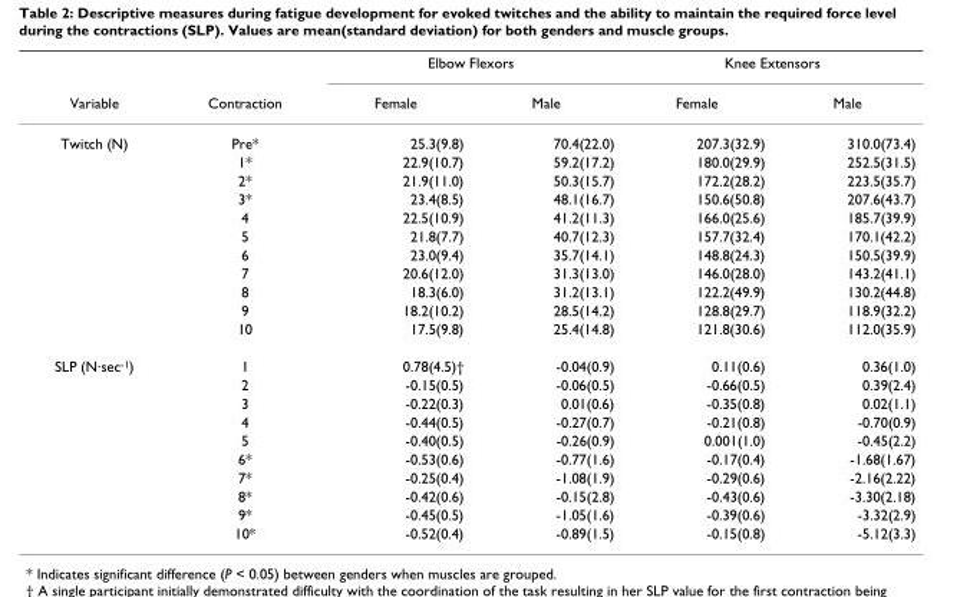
<table><thead><tr><td rowspan="2">Variable</td><td rowspan="2">Contraction</td><td colspan="2">Elbow Flexors</td><td colspan="2">Knee Extensors</td></tr><tr><td>Female</td><td>Male</td><td>Female</td><td>Male</td></tr></thead><tbody><tr><td rowspan="11">Twitch (N)</td><td>Pre*</td><td>25.3(9.8)</td><td>70.4(22.0)</td><td>207.3(32.9)</td><td>310.0(73.4)</td></tr><tr><td>1*</td><td>22.9(10.7)</td><td>59.2(17.2)</td><td>180.0(29.9)</td><td>252.5(31.5)</td></tr><tr><td>2*</td><td>21.9(11.0)</td><td>50.3(15.7)</td><td>172.2(28.2)</td><td>223.5(35.7)</td></tr><tr><td>3*</td><td>23.4(8.5)</td><td>48.1(16.7)</td><td>150.6(50.8)</td><td>207.6(43.7)</td></tr><tr><td>4</td><td>22.5(10.9)</td><td>41.2(11.3)</td><td>166.0(25.6)</td><td>185.7(39.9)</td></tr><tr><td>5</td><td>21.8(7.7)</td><td>40.7(12.3)</td><td>157.7(32.4)</td><td>170.1(42.2)</td></tr><tr><td>6</td><td>23.0(9.4)</td><td>35.7(14.1)</td><td>148.8(24.3)</td><td>150.5(39.9)</td></tr><tr><td>7</td><td>20.6(12.0)</td><td>31.3(13.0)</td><td>146.0(28.0)</td><td>143.2(41.1)</td></tr><tr><td>8</td><td>18.3(6.0)</td><td>31.2(13.1)</td><td>122.2(49.9)</td><td>130.2(44.8)</td></tr><tr><td>9</td><td>18.2(10.2)</td><td>28.5(14.2)</td><td>128.8(29.7)</td><td>118.9(32.2)</td></tr><tr><td>10</td><td>17.5(9.8)</td><td>25.4(14.8)</td><td>121.8(30.6)</td><td>112.0(35.9)</td></tr><tr><td rowspan="10">SLP (N·sec<sup>-1</sup>)</td><td>1</td><td>0.78(4.5)†</td><td>-0.04(0.9)</td><td>0.11(0.6)</td><td>0.36(1.0)</td></tr><tr><td>2</td><td>-0.15(0.5)</td><td>-0.06(0.5)</td><td>-0.66(0.5)</td><td>0.39(2.4)</td></tr><tr><td>3</td><td>-0.22(0.3)</td><td>0.01(0.6)</td><td>-0.35(0.8)</td><td>0.02(1.1)</td></tr><tr><td>4</td><td>-0.44(0.5)</td><td>-0.27(0.7)</td><td>-0.21(0.8)</td><td>-0.70(0.9)</td></tr><tr><td>5</td><td>-0.40(0.5)</td><td>-0.26(0.9)</td><td>0.001(1.0)</td><td>-0.45(2.2)</td></tr><tr><td>6*</td><td>-0.53(0.6)</td><td>-0.77(1.6)</td><td>-0.17(0.4)</td><td>-1.68(1.67)</td></tr><tr><td>7*</td><td>-0.25(0.4)</td><td>-1.08(1.9)</td><td>-0.29(0.6)</td><td>-2.16(2.22)</td></tr><tr><td>8*</td><td>-0.42(0.6)</td><td>-0.15(2.8)</td><td>-0.43(0.6)</td><td>-3.30(2.18)</td></tr><tr><td>9*</td><td>-0.45(0.5)</td><td>-1.05(1.6)</td><td>-0.39(0.6)</td><td>-3.32(2.9)</td></tr><tr><td>10*</td><td>-0.52(0.4)</td><td>-0.89(1.5)</td><td>-0.15(0.8)</td><td>-5.12(3.3)</td></tr></tbody></table>